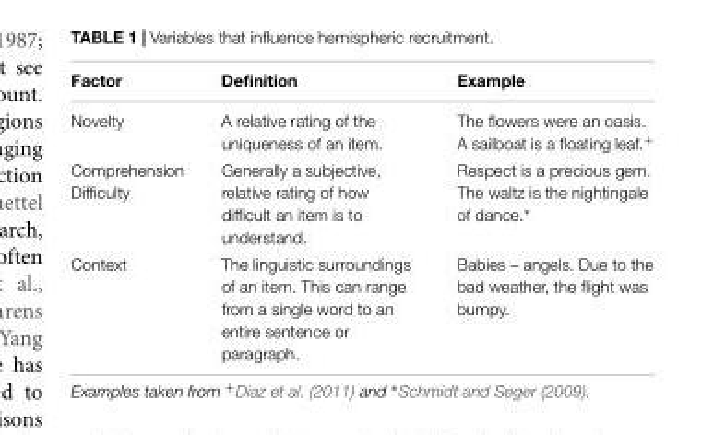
<table><thead><tr><td>Factor</td><td>Definition</td><td>Example</td></tr></thead><tbody><tr><td>Novelty</td><td>A relative rating of the uniqueness of an item.</td><td>The flowers were an oasis. A sailboat is a floating leaf.<sup>+</sup></td></tr><tr><td>Comprehension Difficulty</td><td>Generally a subjective, relative rating of how difficult an item is to understand.</td><td>Respect is a precious gem. The waltz is the nightingale of dance.∗</td></tr><tr><td>Context</td><td>The linguistic surroundings of an item. This can range from a single word to an entire sentence or paragraph.</td><td>Babies – angels. Due to the bad weather, the flight was bumpy.</td></tr></tbody></table>